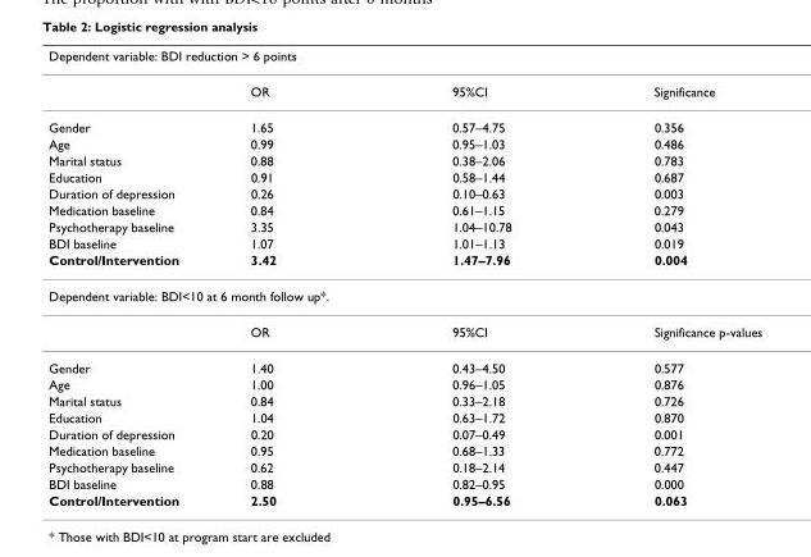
<table><thead><tr><td colspan="4">Dependent variable: BDI reduction &gt; 6 points</td></tr><tr><td></td><td>OR</td><td>95%CI</td><td>Significance</td></tr></thead><tbody><tr><td>Gender</td><td>1.65</td><td>0.57–4.75</td><td>0.356</td></tr><tr><td>Age</td><td>0.99</td><td>0.95–1.03</td><td>0.486</td></tr><tr><td>Marital status</td><td>0.88</td><td>0.38–2.06</td><td>0.783</td></tr><tr><td>Education</td><td>0.91</td><td>0.58–1.44</td><td>0.687</td></tr><tr><td>Duration of depression</td><td>0.26</td><td>0.10–0.63</td><td>0.003</td></tr><tr><td>Medication baseline</td><td>0.84</td><td>0.61–1.15</td><td>0.279</td></tr><tr><td>Psychotherapy baseline</td><td>3.35</td><td>1.04–10.78</td><td>0.043</td></tr><tr><td>BDI baseline</td><td>1.07</td><td>1.01–1.13</td><td>0.019</td></tr><tr><td>Control/Intervention</td><td>3.42</td><td>1.47–7.96</td><td>0.004</td></tr><tr><td colspan="4">Dependent variable: BDI&lt;10 at 6 month follow up*.</td></tr><tr><td></td><td>OR</td><td>95%CI</td><td>Significance p-values</td></tr><tr><td>Gender</td><td>1.40</td><td>0.43–4.50</td><td>0.577</td></tr><tr><td>Age</td><td>1.00</td><td>0.96–1.05</td><td>0.876</td></tr><tr><td>Marital status</td><td>0.84</td><td>0.33–2.18</td><td>0.726</td></tr><tr><td>Education</td><td>1.04</td><td>0.63–1.72</td><td>0.870</td></tr><tr><td>Duration of depression</td><td>0.20</td><td>0.07–0.49</td><td>0.001</td></tr><tr><td>Medication baseline</td><td>0.95</td><td>0.68–1.33</td><td>0.772</td></tr><tr><td>Psychotherapy baseline</td><td>0.62</td><td>0.18–2.14</td><td>0.447</td></tr><tr><td>BDI baseline</td><td>0.88</td><td>0.82–0.95</td><td>0.000</td></tr><tr><td>Control/Intervention</td><td>2.50</td><td>0.95–6.56</td><td>0.063</td></tr></tbody></table>